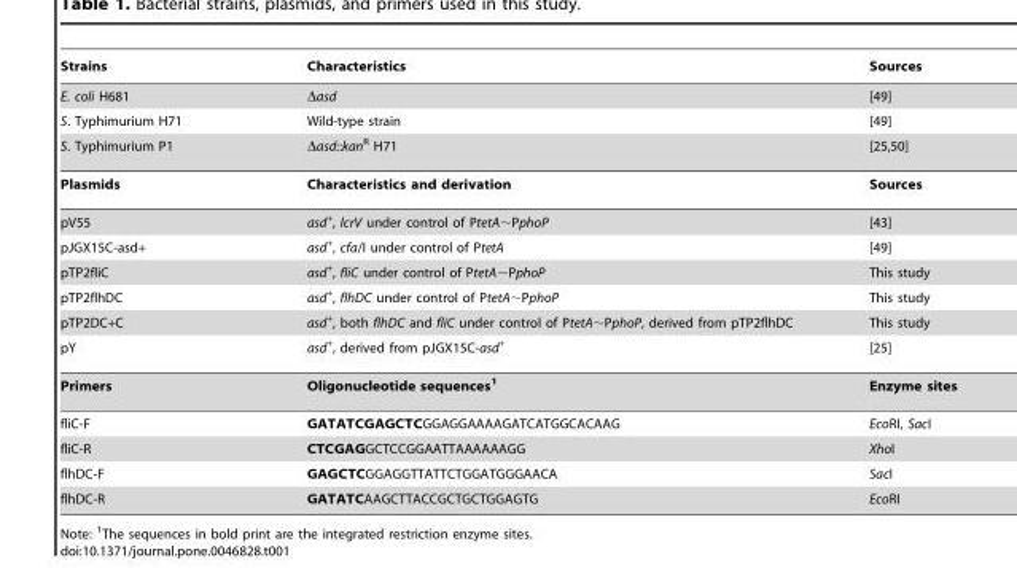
<table><thead><tr><td>Strains</td><td>Characteristics</td><td>Sources</td></tr></thead><tbody><tr><td>E. coli H681</td><td>Δasd</td><td>[49]</td></tr><tr><td>S. Typhimurium H71</td><td>Wild-type strain</td><td>[49]</td></tr><tr><td>S. Typhimurium P1</td><td>Δasd::kan<sup>R</sup> H71</td><td>[25,50]</td></tr><tr><td>Plasmids</td><td>Characteristics and derivation</td><td>Sources</td></tr><tr><td>pV55</td><td>asd<sup>+</sup>, lcrV under control of PtetA∼PphoP</td><td>[43]</td></tr><tr><td>pJGX15C-asd+</td><td>asd<sup>+</sup>, cfa/I under control of PtetA</td><td>[49]</td></tr><tr><td>pTP2fliC</td><td>asd<sup>+</sup>, fliC under control of PtetA∼PphoP</td><td>This study</td></tr><tr><td>pTP2flhDC</td><td>asd<sup>+</sup>, flhDC under control of PtetA∼PphoP</td><td>This study</td></tr><tr><td>pTP2DC+C</td><td>asd<sup>+</sup>, both flhDC and fliC under control of PtetA∼PphoP, derived from pTP2flhDC</td><td>This study</td></tr><tr><td>pY</td><td>asd<sup>+</sup>, derived from pJGX15C-asd<sup>+</sup></td><td>[25]</td></tr><tr><td>Primers</td><td>Oligonucleotide sequences<sup>1</sup></td><td>Enzyme sites</td></tr><tr><td>fliC-F</td><td>GATATCGAGCTCGGAGGAAAAGATCATGGCACAAG</td><td>EcoRI, SacI</td></tr><tr><td>fliC-R</td><td>CTCGAGGCTCCGGAATTAAAAAAGG</td><td>XhoI</td></tr><tr><td>flhDC-F</td><td>GAGCTCGGAGGTTATTCTGGATGGGAACA</td><td>SacI</td></tr><tr><td>flhDC-R</td><td>GATATCAAGCTTACCGCTGCTGGAGTG</td><td>EcoRI</td></tr></tbody></table>